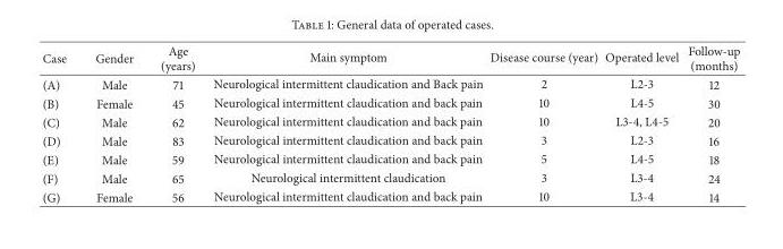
<table><thead><tr><td>Case</td><td>Gender</td><td>Age (years)</td><td>Main symptom</td><td>Disease course (year)</td><td>Operated level</td><td>Follow-up (months)</td></tr></thead><tbody><tr><td>(A)</td><td>Male</td><td>71</td><td>Neurological intermittent claudication and Back pain</td><td>2</td><td>L2-3</td><td>12</td></tr><tr><td>(B)</td><td>Female</td><td>45</td><td>Neurological intermittent claudication and back pain</td><td>10</td><td>L4-5</td><td>30</td></tr><tr><td>(C)</td><td>Male</td><td>62</td><td>Neurological intermittent claudication and back pain</td><td>10</td><td>L3-4, L4-5</td><td>20</td></tr><tr><td>(D)</td><td>Male</td><td>83</td><td>Neurological intermittent claudication and back pain</td><td>3</td><td>L2-3</td><td>16</td></tr><tr><td>(E)</td><td>Male</td><td>59</td><td>Neurological intermittent claudication and back pain</td><td>5</td><td>L4-5</td><td>18</td></tr><tr><td>(F)</td><td>Male</td><td>65</td><td>Neurological intermittent claudication</td><td>3</td><td>L3-4</td><td>24</td></tr><tr><td>(G)</td><td>Female</td><td>56</td><td>Neurological intermittent claudication and back pain</td><td>10</td><td>L3-4</td><td>14</td></tr></tbody></table>